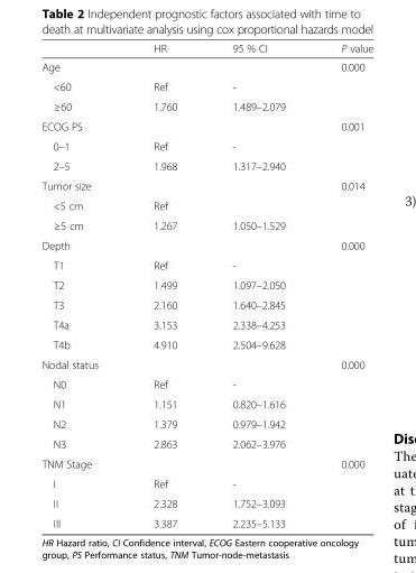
<table><thead><tr><td></td><td>HR</td><td>95 % CI</td><td>P value</td></tr></thead><tbody><tr><td>Age</td><td></td><td></td><td>0.000</td></tr><tr><td>&lt;60</td><td>Ref</td><td>-</td><td></td></tr><tr><td>≥60</td><td>1.760</td><td>1.489–2.079</td><td></td></tr><tr><td>ECOG PS</td><td></td><td></td><td>0.001</td></tr><tr><td>0–1</td><td>Ref</td><td>-</td><td></td></tr><tr><td>2–5</td><td>1.968</td><td>1.317–2.940</td><td></td></tr><tr><td>Tumor size</td><td></td><td></td><td>0.014</td></tr><tr><td>&lt;5 cm</td><td>Ref</td><td></td><td></td></tr><tr><td>≥5 cm</td><td>1.267</td><td>1.050–1.529</td><td></td></tr><tr><td>Depth</td><td></td><td></td><td>0.000</td></tr><tr><td>T1</td><td>Ref</td><td>-</td><td></td></tr><tr><td>T2</td><td>1.499</td><td>1.097–2.050</td><td></td></tr><tr><td>T3</td><td>2.160</td><td>1.640–2.845</td><td></td></tr><tr><td>T4a</td><td>3.153</td><td>2.338–4.253</td><td></td></tr><tr><td>T4b</td><td>4.910</td><td>2.504–9.628</td><td></td></tr><tr><td>Nodal status</td><td></td><td></td><td>0.000</td></tr><tr><td>N0</td><td>Ref</td><td>-</td><td></td></tr><tr><td>N1</td><td>1.151</td><td>0.820–1.616</td><td></td></tr><tr><td>N2</td><td>1.379</td><td>0.979–1.942</td><td></td></tr><tr><td>N3</td><td>2.863</td><td>2.062–3.976</td><td></td></tr><tr><td>TNM Stage</td><td></td><td></td><td>0.000</td></tr><tr><td>I</td><td>Ref</td><td>-</td><td></td></tr><tr><td>II</td><td>2.328</td><td>1.752–3.093</td><td></td></tr><tr><td>III</td><td>3.387</td><td>2.235–5.133</td><td></td></tr></tbody></table>